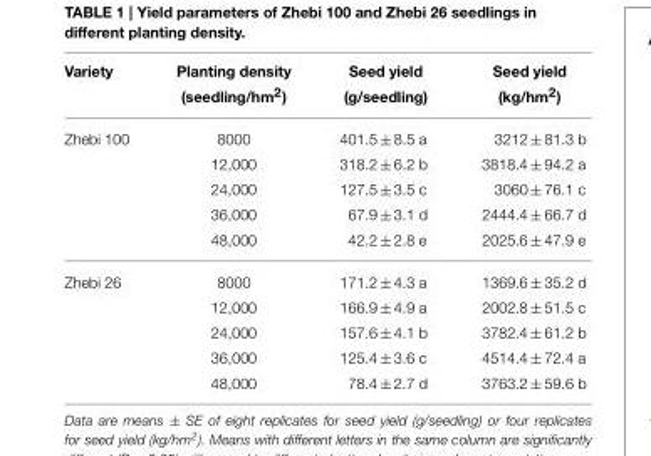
<table><thead><tr><td>Variety</td><td>Planting density (seedling/hm<sup>2</sup>)</td><td>Seed yield (g/seedling)</td><td>Seed yield (kg/hm<sup>2</sup>)</td></tr></thead><tbody><tr><td rowspan="5">Zhebi 100</td><td>8000</td><td>401.5 ± 8.5 a</td><td>3212 ± 81.3 b</td></tr><tr><td>12,000</td><td>318.2 ± 6.2 b</td><td>3818.4 ± 94.2 a</td></tr><tr><td>24,000</td><td>127.5 ± 3.5 c</td><td>3060 ± 76.1 c</td></tr><tr><td>36,000</td><td>67.9 ± 3.1 d</td><td>2444.4 ± 66.7 d</td></tr><tr><td>48,000</td><td>42.2 ± 2.8 e</td><td>2025.6 ± 47.9 e</td></tr><tr><td rowspan="5">Zhebi 26</td><td>8000</td><td>171.2 ± 4.3 a</td><td>1369.6 ± 35.2 d</td></tr><tr><td>12,000</td><td>166.9 ± 4.9 a</td><td>2002.8 ± 51.5 c</td></tr><tr><td>24,000</td><td>157.6 ± 4.1 b</td><td>3782.4 ± 61.2 b</td></tr><tr><td>36,000</td><td>125.4 ± 3.6 c</td><td>4514.4 ± 72.4 a</td></tr><tr><td>48,000</td><td>78.4 ± 2.7 d</td><td>3763.2 ± 59.6 b</td></tr></tbody></table>